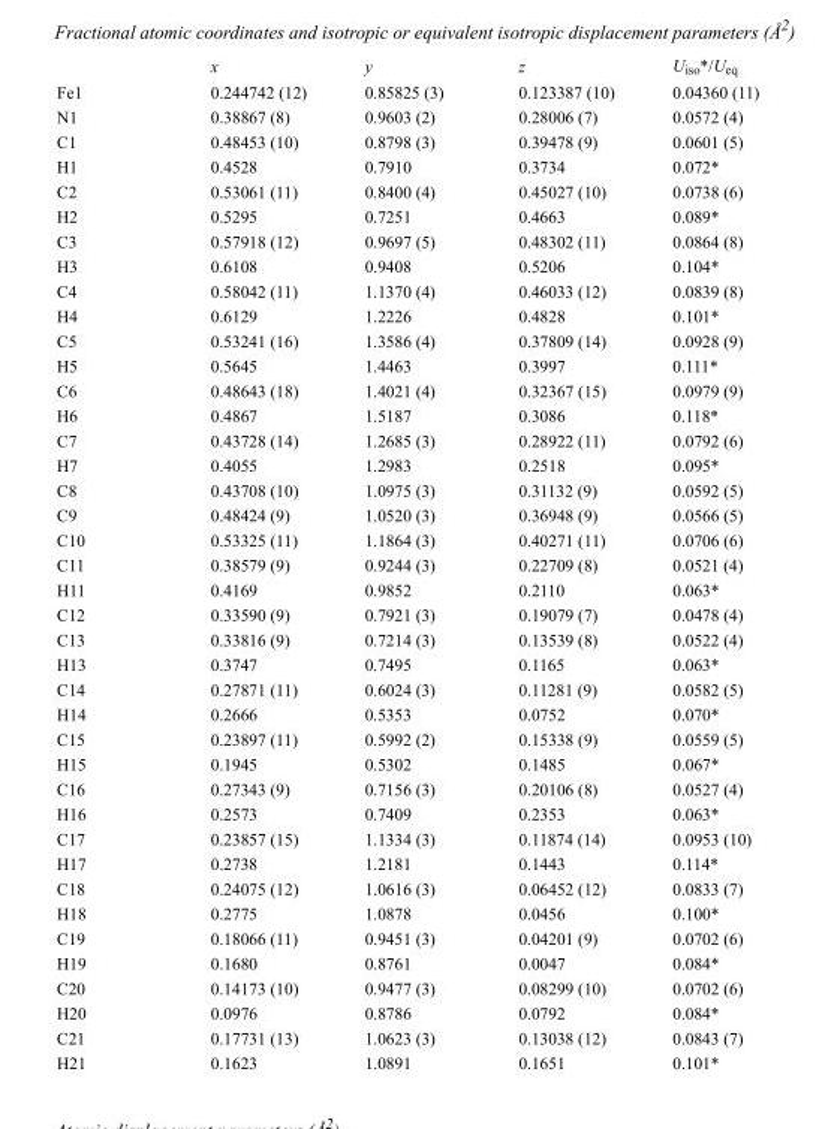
<table><thead><tr><td></td><td>x</td><td>y</td><td>z</td><td>U<sub>iso</sub>*/U<sub>eq</sub></td></tr></thead><tbody><tr><td>Fe1</td><td>0.244742 (12)</td><td>0.85825 (3)</td><td>0.123387 (10)</td><td>0.04360 (11)</td></tr><tr><td>N1</td><td>0.38867 (8)</td><td>0.9603 (2)</td><td>0.28006 (7)</td><td>0.0572 (4)</td></tr><tr><td>C1</td><td>0.48453 (10)</td><td>0.8798 (3)</td><td>0.39478 (9)</td><td>0.0601 (5)</td></tr><tr><td>H1</td><td>0.4528</td><td>0.7910</td><td>0.3734</td><td>0.072*</td></tr><tr><td>C2</td><td>0.53061 (11)</td><td>0.8400 (4)</td><td>0.45027 (10)</td><td>0.0738 (6)</td></tr><tr><td>H2</td><td>0.5295</td><td>0.7251</td><td>0.4663</td><td>0.089*</td></tr><tr><td>C3</td><td>0.57918 (12)</td><td>0.9697 (5)</td><td>0.48302 (11)</td><td>0.0864 (8)</td></tr><tr><td>H3</td><td>0.6108</td><td>0.9408</td><td>0.5206</td><td>0.104*</td></tr><tr><td>C4</td><td>0.58042 (11)</td><td>1.1370 (4)</td><td>0.46033 (12)</td><td>0.0839 (8)</td></tr><tr><td>H4</td><td>0.6129</td><td>1.2226</td><td>0.4828</td><td>0.101*</td></tr><tr><td>C5</td><td>0.53241 (16)</td><td>1.3586 (4)</td><td>0.37809 (14)</td><td>0.0928 (9)</td></tr><tr><td>H5</td><td>0.5645</td><td>1.4463</td><td>0.3997</td><td>0.111*</td></tr><tr><td>C6</td><td>0.48643 (18)</td><td>1.4021 (4)</td><td>0.32367 (15)</td><td>0.0979 (9)</td></tr><tr><td>H6</td><td>0.4867</td><td>1.5187</td><td>0.3086</td><td>0.118*</td></tr><tr><td>C7</td><td>0.43728 (14)</td><td>1.2685 (3)</td><td>0.28922 (11)</td><td>0.0792 (6)</td></tr><tr><td>H7</td><td>0.4055</td><td>1.2983</td><td>0.2518</td><td>0.095*</td></tr><tr><td>C8</td><td>0.43708 (10)</td><td>1.0975 (3)</td><td>0.31132 (9)</td><td>0.0592 (5)</td></tr><tr><td>C9</td><td>0.48424 (9)</td><td>1.0520 (3)</td><td>0.36948 (9)</td><td>0.0566 (5)</td></tr><tr><td>C10</td><td>0.53325 (11)</td><td>1.1864 (3)</td><td>0.40271 (11)</td><td>0.0706 (6)</td></tr><tr><td>C11</td><td>0.38579 (9)</td><td>0.9244 (3)</td><td>0.22709 (8)</td><td>0.0521 (4)</td></tr><tr><td>H11</td><td>0.4169</td><td>0.9852</td><td>0.2110</td><td>0.063*</td></tr><tr><td>C12</td><td>0.33590 (9)</td><td>0.7921 (3)</td><td>0.19079 (7)</td><td>0.0478 (4)</td></tr><tr><td>C13</td><td>0.33816 (9)</td><td>0.7214 (3)</td><td>0.13539 (8)</td><td>0.0522 (4)</td></tr><tr><td>H13</td><td>0.3747</td><td>0.7495</td><td>0.1165</td><td>0.063*</td></tr><tr><td>C14</td><td>0.27871 (11)</td><td>0.6024 (3)</td><td>0.11281 (9)</td><td>0.0582 (5)</td></tr><tr><td>H14</td><td>0.2666</td><td>0.5353</td><td>0.0752</td><td>0.070*</td></tr><tr><td>C15</td><td>0.23897 (11)</td><td>0.5992 (2)</td><td>0.15338 (9)</td><td>0.0559 (5)</td></tr><tr><td>H15</td><td>0.1945</td><td>0.5302</td><td>0.1485</td><td>0.067*</td></tr><tr><td>C16</td><td>0.27343 (9)</td><td>0.7156 (3)</td><td>0.20106 (8)</td><td>0.0527 (4)</td></tr><tr><td>H16</td><td>0.2573</td><td>0.7409</td><td>0.2353</td><td>0.063*</td></tr><tr><td>C17</td><td>0.23857 (15)</td><td>1.1334 (3)</td><td>0.11874 (14)</td><td>0.0953 (10)</td></tr><tr><td>H17</td><td>0.2738</td><td>1.2181</td><td>0.1443</td><td>0.114*</td></tr><tr><td>C18</td><td>0.24075 (12)</td><td>1.0616 (3)</td><td>0.06452 (12)</td><td>0.0833 (7)</td></tr><tr><td>H18</td><td>0.2775</td><td>1.0878</td><td>0.0456</td><td>0.100*</td></tr><tr><td>C19</td><td>0.18066 (11)</td><td>0.9451 (3)</td><td>0.04201 (9)</td><td>0.0702 (6)</td></tr><tr><td>H19</td><td>0.1680</td><td>0.8761</td><td>0.0047</td><td>0.084*</td></tr><tr><td>C20</td><td>0.14173 (10)</td><td>0.9477 (3)</td><td>0.08299 (10)</td><td>0.0702 (6)</td></tr><tr><td>H20</td><td>0.0976</td><td>0.8786</td><td>0.0792</td><td>0.084*</td></tr><tr><td>C21</td><td>0.17731 (13)</td><td>1.0623 (3)</td><td>0.13038 (12)</td><td>0.0843 (7)</td></tr><tr><td>H21</td><td>0.1623</td><td>1.0891</td><td>0.1651</td><td>0.101*</td></tr></tbody></table>